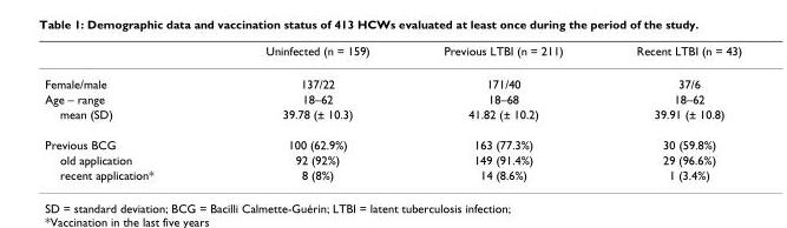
<table><thead><tr><td></td><td>Uninfected (n = 159)</td><td>Previous LTBI (n = 211)</td><td>Recent LTBI (n = 43)</td></tr></thead><tbody><tr><td>Female/male</td><td>137/22</td><td>171/40</td><td>37/6</td></tr><tr><td>Age – range</td><td>18–62</td><td>18–68</td><td>18–62</td></tr><tr><td>mean (SD)</td><td>39.78 (± 10.3)</td><td>41.82 (± 10.2)</td><td>39.91 (± 10.8)</td></tr><tr><td>Previous BCG</td><td>100 (62.9%)</td><td>163 (77.3%)</td><td>30 (59.8%)</td></tr><tr><td>old application</td><td>92 (92%)</td><td>149 (91.4%)</td><td>29 (96.6%)</td></tr><tr><td>recent application*</td><td>8 (8%)</td><td>14 (8.6%)</td><td>1 (3.4%)</td></tr></tbody></table>